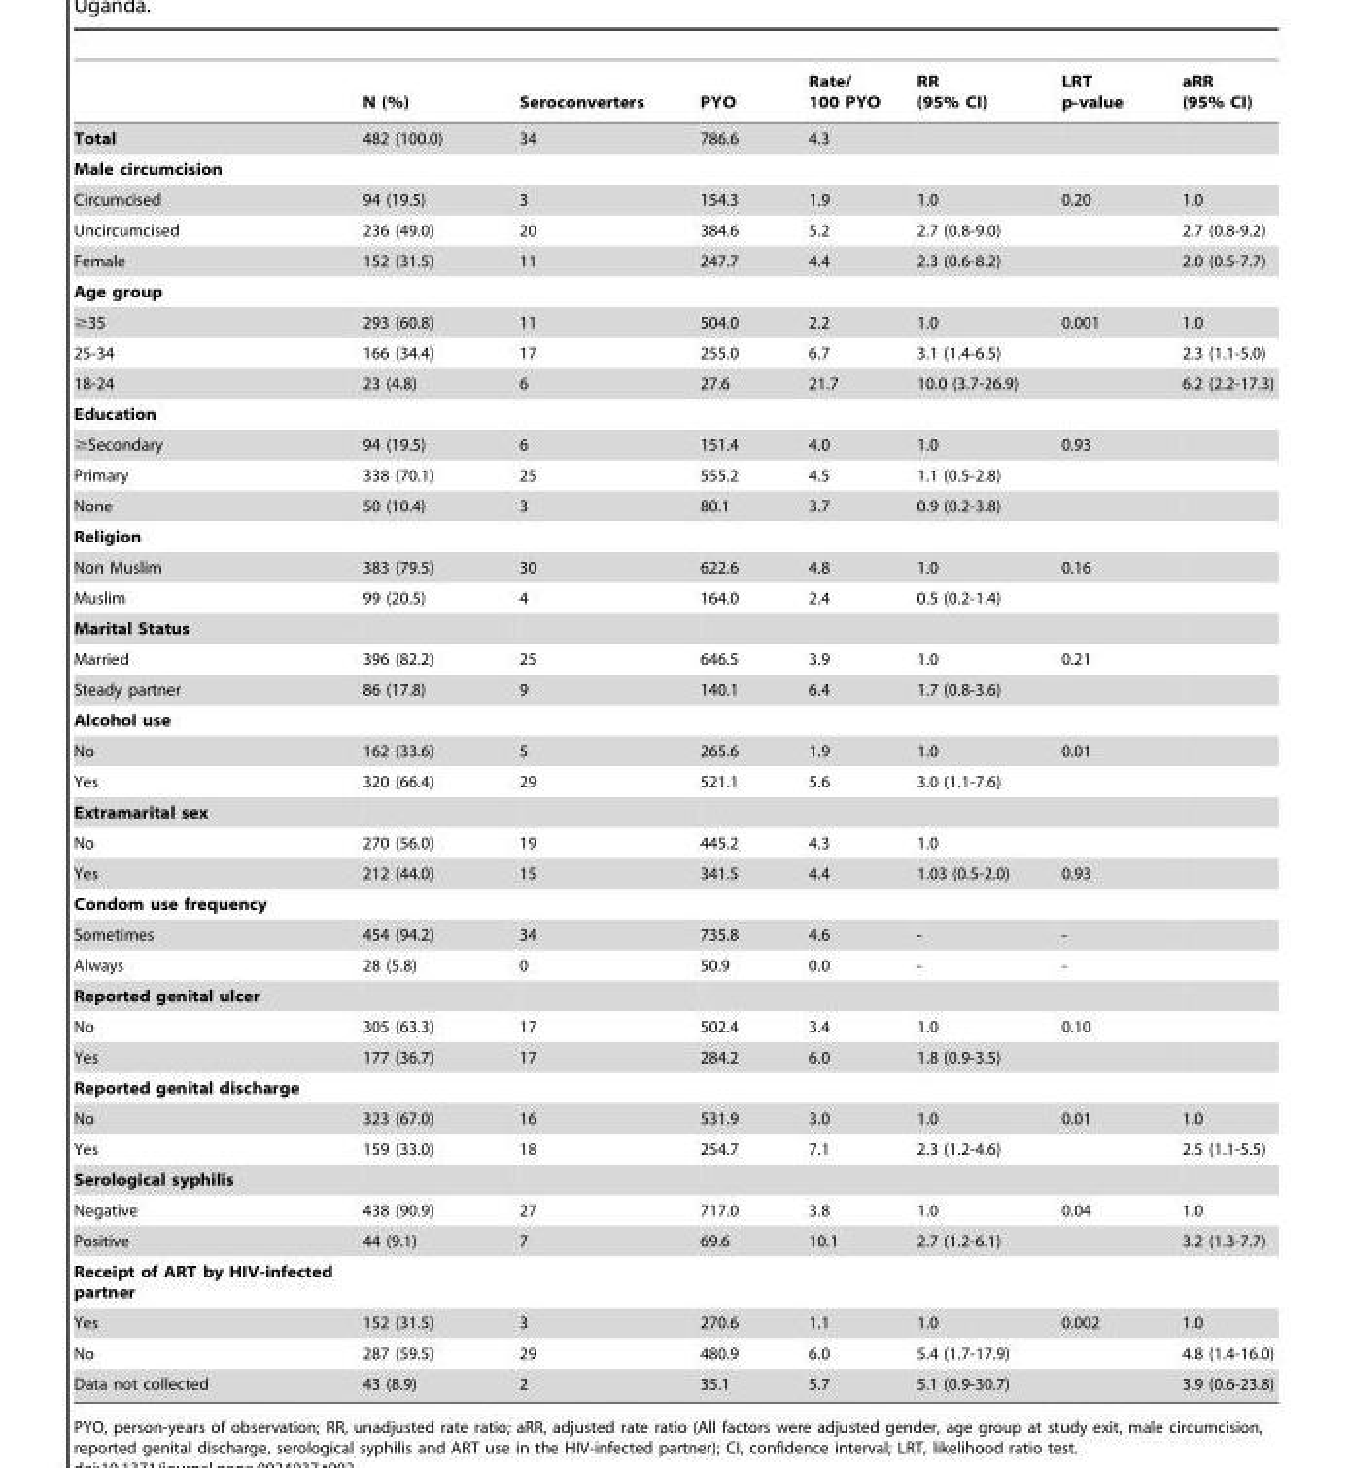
<table><thead><tr><td></td><td>N (%)</td><td>Seroconverters</td><td>PYO</td><td>Rate/ 100 PYO</td><td>RR (95% CI)</td><td>LRT p-value</td><td>aRR (95% CI)</td></tr></thead><tbody><tr><td>Total</td><td>482 (100.0)</td><td>34</td><td>786.6</td><td>4.3</td><td></td><td></td><td></td></tr><tr><td colspan="8">Male circumcision</td></tr><tr><td>Circumcised</td><td>94 (19.5)</td><td>3</td><td>154.3</td><td>1.9</td><td>1.0</td><td>0.20</td><td>1.0</td></tr><tr><td>Uncircumcised</td><td>236 (49.0)</td><td>20</td><td>384.6</td><td>5.2</td><td>2.7 (0.8-9.0)</td><td></td><td>2.7 (0.8-9.2)</td></tr><tr><td>Female</td><td>152 (31.5)</td><td>11</td><td>247.7</td><td>4.4</td><td>2.3 (0.6-8.2)</td><td></td><td>2.0 (0.5-7.7)</td></tr><tr><td colspan="8">Age group</td></tr><tr><td>≥35</td><td>293 (60.8)</td><td>11</td><td>504.0</td><td>2.2</td><td>1.0</td><td>0.001</td><td>1.0</td></tr><tr><td>25-34</td><td>166 (34.4)</td><td>17</td><td>255.0</td><td>6.7</td><td>3.1 (1.4-6.5)</td><td></td><td>2.3 (1.1-5.0)</td></tr><tr><td>18-24</td><td>23 (4.8)</td><td>6</td><td>27.6</td><td>21.7</td><td>10.0 (3.7-26.9)</td><td></td><td>6.2 (2.2-17.3)</td></tr><tr><td colspan="8">Education</td></tr><tr><td>≥Secondary</td><td>94 (19.5)</td><td>6</td><td>151.4</td><td>4.0</td><td>1.0</td><td>0.93</td><td></td></tr><tr><td>Primary</td><td>338 (70.1)</td><td>25</td><td>555.2</td><td>4.5</td><td>1.1 (0.5-2.8)</td><td></td><td></td></tr><tr><td>None</td><td>50 (10.4)</td><td>3</td><td>80.1</td><td>3.7</td><td>0.9 (0.2-3.8)</td><td></td><td></td></tr><tr><td colspan="8">Religion</td></tr><tr><td>Non Muslim</td><td>383 (79.5)</td><td>30</td><td>622.6</td><td>4.8</td><td>1.0</td><td>0.16</td><td></td></tr><tr><td>Muslim</td><td>99 (20.5)</td><td>4</td><td>164.0</td><td>2.4</td><td>0.5 (0.2-1.4)</td><td></td><td></td></tr><tr><td colspan="8">Marital Status</td></tr><tr><td>Married</td><td>396 (82.2)</td><td>25</td><td>646.5</td><td>3.9</td><td>1.0</td><td>0.21</td><td></td></tr><tr><td>Steady partner</td><td>86 (17.8)</td><td>9</td><td>140.1</td><td>6.4</td><td>1.7 (0.8-3.6)</td><td></td><td></td></tr><tr><td colspan="8">Alcohol use</td></tr><tr><td>No</td><td>162 (33.6)</td><td>5</td><td>265.6</td><td>1.9</td><td>1.0</td><td>0.01</td><td></td></tr><tr><td>Yes</td><td>320 (66.4)</td><td>29</td><td>521.1</td><td>5.6</td><td>3.0 (1.1-7.6)</td><td></td><td></td></tr><tr><td colspan="8">Extramarital sex</td></tr><tr><td>No</td><td>270 (56.0)</td><td>19</td><td>445.2</td><td>4.3</td><td>1.0</td><td></td><td></td></tr><tr><td>Yes</td><td>212 (44.0)</td><td>15</td><td>341.5</td><td>4.4</td><td>1.03 (0.5-2.0)</td><td>0.93</td><td></td></tr><tr><td colspan="8">Condom use frequency</td></tr><tr><td>Sometimes</td><td>454 (94.2)</td><td>34</td><td>735.8</td><td>4.6</td><td>-</td><td>-</td><td></td></tr><tr><td>Always</td><td>28 (5.8)</td><td>0</td><td>50.9</td><td>0.0</td><td>-</td><td>-</td><td></td></tr><tr><td colspan="8">Reported genital ulcer</td></tr><tr><td>No</td><td>305 (63.3)</td><td>17</td><td>502.4</td><td>3.4</td><td>1.0</td><td>0.10</td><td></td></tr><tr><td>Yes</td><td>177 (36.7)</td><td>17</td><td>284.2</td><td>6.0</td><td>1.8 (0.9-3.5)</td><td></td><td></td></tr><tr><td colspan="8">Reported genital discharge</td></tr><tr><td>No</td><td>323 (67.0)</td><td>16</td><td>531.9</td><td>3.0</td><td>1.0</td><td>0.01</td><td>1.0</td></tr><tr><td>Yes</td><td>159 (33.0)</td><td>18</td><td>254.7</td><td>7.1</td><td>2.3 (1.2-4.6)</td><td></td><td>2.5 (1.1-5.5)</td></tr><tr><td colspan="8">Serological syphilis</td></tr><tr><td>Negative</td><td>438 (90.9)</td><td>27</td><td>717.0</td><td>3.8</td><td>1.0</td><td>0.04</td><td>1.0</td></tr><tr><td>Positive</td><td>44 (9.1)</td><td>7</td><td>69.6</td><td>10.1</td><td>2.7 (1.2-6.1)</td><td></td><td>3.2 (1.3-7.7)</td></tr><tr><td colspan="8">Receipt of ART by HIV-infected partner</td></tr><tr><td>Yes</td><td>152 (31.5)</td><td>3</td><td>270.6</td><td>1.1</td><td>1.0</td><td>0.002</td><td>1.0</td></tr><tr><td>No</td><td>287 (59.5)</td><td>29</td><td>480.9</td><td>6.0</td><td>5.4 (1.7-17.9)</td><td></td><td>4.8 (1.4-16.0)</td></tr><tr><td>Data not collected</td><td>43 (8.9)</td><td>2</td><td>35.1</td><td>5.7</td><td>5.1 (0.9-30.7)</td><td></td><td>3.9 (0.6-23.8)</td></tr></tbody></table>